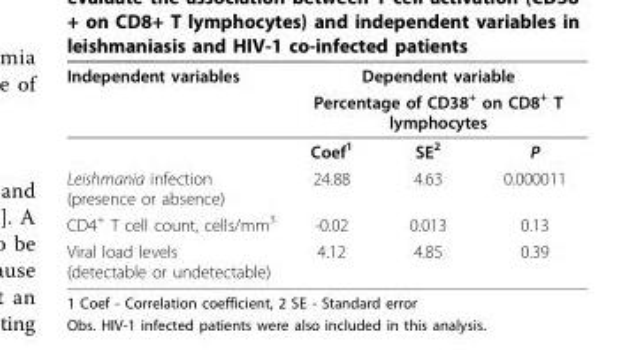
<table><thead><tr><td rowspan="3">Independent variables</td><td rowspan="2" colspan="3">Dependent variable Percentage of CD38<sup>+</sup> on CD8<sup>+</sup> T lymphocytes</td></tr><tr></tr><tr><td>Coef<sup>1</sup></td><td>SE<sup>2</sup></td><td>P</td></tr></thead><tbody><tr><td>Leishmania infection (presence or absence)</td><td>24.88</td><td>4.63</td><td>0.000011</td></tr><tr><td>CD4<sup>+</sup> T cell count, cells/mm<sup>3</sup></td><td>-0.02</td><td>0.013</td><td>0.13</td></tr><tr><td>Viral load levels (detectable or undetectable)</td><td>4.12</td><td>4.85</td><td>0.39</td></tr></tbody></table>